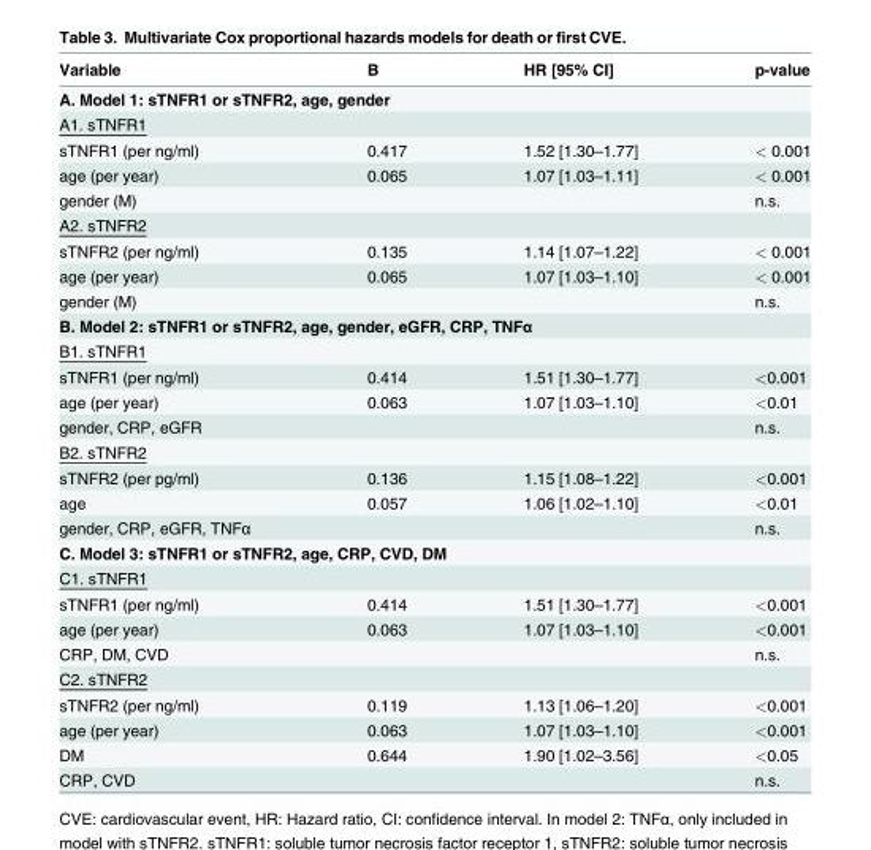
<table><thead><tr><td>Variable</td><td>B</td><td>HR [95% CI]</td><td>p-value</td></tr></thead><tbody><tr><td colspan="4">A. Model 1: sTNFR1 or sTNFR2, age, gender</td></tr><tr><td colspan="4">A1. sTNFR1</td></tr><tr><td>sTNFR1 (per ng/ml)</td><td>0.417</td><td>1.52 [1.30–1.77]</td><td>&lt; 0.001</td></tr><tr><td>age (per year)</td><td>0.065</td><td>1.07 [1.03–1.11]</td><td>&lt; 0.001</td></tr><tr><td>gender (M)</td><td></td><td></td><td>n.s.</td></tr><tr><td colspan="4">A2. sTNFR2</td></tr><tr><td>sTNFR2 (per ng/ml)</td><td>0.135</td><td>1.14 [1.07–1.22]</td><td>&lt; 0.001</td></tr><tr><td>age (per year)</td><td>0.065</td><td>1.07 [1.03–1.10]</td><td>&lt; 0.001</td></tr><tr><td>gender (M)</td><td></td><td></td><td>n.s.</td></tr><tr><td colspan="4">B. Model 2: sTNFR1 or sTNFR2, age, gender, eGFR, CRP, TNFα</td></tr><tr><td colspan="4">B1. sTNFR1</td></tr><tr><td>sTNFR1 (per ng/ml)</td><td>0.414</td><td>1.51 [1.30–1.77]</td><td>&lt;0.001</td></tr><tr><td>age (per year)</td><td>0.063</td><td>1.07 [1.03–1.10]</td><td>&lt;0.01</td></tr><tr><td>gender, CRP, eGFR</td><td></td><td></td><td>n.s.</td></tr><tr><td colspan="4">B2. sTNFR2</td></tr><tr><td>sTNFR2 (per pg/ml)</td><td>0.136</td><td>1.15 [1.08–1.22]</td><td>&lt;0.001</td></tr><tr><td>age</td><td>0.057</td><td>1.06 [1.02–1.10]</td><td>&lt;0.01</td></tr><tr><td>gender, CRP, eGFR, TNFα</td><td></td><td></td><td>n.s.</td></tr><tr><td colspan="4">C. Model 3: sTNFR1 or sTNFR2, age, CRP, CVD, DM</td></tr><tr><td colspan="4">C1. sTNFR1</td></tr><tr><td>sTNFR1 (per ng/ml)</td><td>0.414</td><td>1.51 [1.30–1.77]</td><td>&lt;0.001</td></tr><tr><td>age (per year)</td><td>0.063</td><td>1.07 [1.03–1.10]</td><td>&lt;0.001</td></tr><tr><td>CRP, DM, CVD</td><td></td><td></td><td>n.s.</td></tr><tr><td colspan="4">C2. sTNFR2</td></tr><tr><td>sTNFR2 (per ng/ml)</td><td>0.119</td><td>1.13 [1.06–1.20]</td><td>&lt;0.001</td></tr><tr><td>age (per year)</td><td>0.063</td><td>1.07 [1.03–1.10]</td><td>&lt;0.001</td></tr><tr><td>DM</td><td>0.644</td><td>1.90 [1.02–3.56]</td><td>&lt;0.05</td></tr><tr><td>CRP, CVD</td><td></td><td></td><td>n.s.</td></tr></tbody></table>